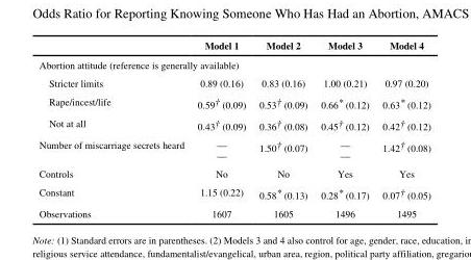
<table><thead><tr><td></td><td>Model 1</td><td>Model 2</td><td>Model 3</td><td>Model 4</td></tr></thead><tbody><tr><td colspan="5">Abortion attitude (reference is generally available)</td></tr><tr><td>Stricter limits</td><td>0.89 (0.16)</td><td>0.83 (0.16)</td><td>1.00 (0.21)</td><td>0.97 (0.20)</td></tr><tr><td>Rape/incest/life</td><td>0.59† (0.09)</td><td>0.53† (0.09)</td><td>0.66* (0.12)</td><td>0.63* (0.12)</td></tr><tr><td>Not at all</td><td>0.43† (0.09)</td><td>0.36† (0.08)</td><td>0.45† (0.12)</td><td>0.42† (0.12)</td></tr><tr><td>Number of miscarriage secrets heard</td><td>— —</td><td>1.50† (0.07)</td><td>— —</td><td>1.42† (0.08)</td></tr><tr><td>Controls</td><td>No</td><td>No</td><td>Yes</td><td>Yes</td></tr><tr><td>Constant</td><td>1.15 (0.22)</td><td>0.58* (0.13)</td><td>0.28* (0.17)</td><td>0.07† (0.05)</td></tr><tr><td>Observations</td><td>1607</td><td>1605</td><td>1496</td><td>1495</td></tr></tbody></table>